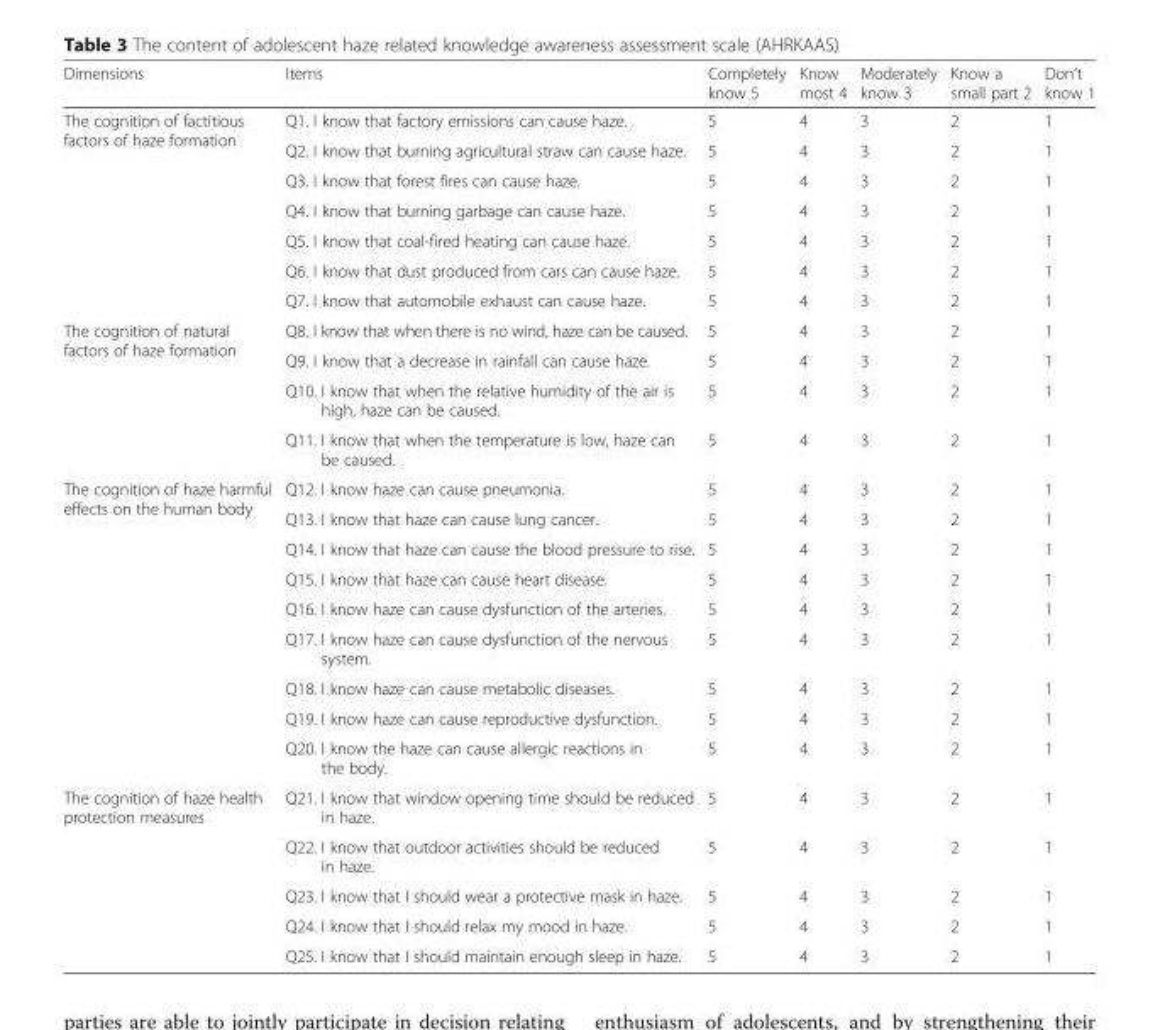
<table><thead><tr><td>Dimensions</td><td>Items</td><td>Completely know 5</td><td>Know most 4</td><td>Moderately know 3</td><td>Know a small part 2</td><td>Don’t know 1</td></tr></thead><tbody><tr><td rowspan="7">The cognition of factitious factors of haze formation</td><td>Q1. I know that factory emissions can cause haze.</td><td>5</td><td>4</td><td>3</td><td>2</td><td>1</td></tr><tr><td>Q2. I know that burning agricultural straw can cause haze.</td><td>5</td><td>4</td><td>3</td><td>2</td><td>1</td></tr><tr><td>Q3. I know that forest fires can cause haze.</td><td>5</td><td>4</td><td>3</td><td>2</td><td>1</td></tr><tr><td>Q4. I know that burning garbage can cause haze.</td><td>5</td><td>4</td><td>3</td><td>2</td><td>1</td></tr><tr><td>Q5. I know that coal-fired heating can cause haze.</td><td>5</td><td>4</td><td>3</td><td>2</td><td>1</td></tr><tr><td>Q6. I know that dust produced from cars can cause haze.</td><td>5</td><td>4</td><td>3</td><td>2</td><td>1</td></tr><tr><td>Q7. I know that automobile exhaust can cause haze.</td><td>5</td><td>4</td><td>3</td><td>2</td><td>1</td></tr><tr><td rowspan="4">The cognition of natural factors of haze formation</td><td>Q8. I know that when there is no wind, haze can be caused.</td><td>5</td><td>4</td><td>3</td><td>2</td><td>1</td></tr><tr><td>Q9. I know that a decrease in rainfall can cause haze.</td><td>5</td><td>4</td><td>3</td><td>2</td><td>1</td></tr><tr><td>Q10. I know that when the relative humidity of the air is high, haze can be caused.</td><td>5</td><td>4</td><td>3</td><td>2</td><td>1</td></tr><tr><td>Q11. I know that when the temperature is low, haze can be caused.</td><td>5</td><td>4</td><td>3</td><td>2</td><td>1</td></tr><tr><td rowspan="9">The cognition of haze harmful effects on the human body</td><td>Q12. I know haze can cause pneumonia.</td><td>5</td><td>4</td><td>3</td><td>2</td><td>1</td></tr><tr><td>Q13. I know that haze can cause lung cancer.</td><td>5</td><td>4</td><td>3</td><td>2</td><td>1</td></tr><tr><td>Q14. I know that haze can cause the blood pressure to rise.</td><td>5</td><td>4</td><td>3</td><td>2</td><td>1</td></tr><tr><td>Q15. I know that haze can cause heart disease.</td><td>5</td><td>4</td><td>3</td><td>2</td><td>1</td></tr><tr><td>Q16. I know haze can cause dysfunction of the arteries.</td><td>5</td><td>4</td><td>3</td><td>2</td><td>1</td></tr><tr><td>Q17. I know haze can cause dysfunction of the nervous system.</td><td>5</td><td>4</td><td>3</td><td>2</td><td>1</td></tr><tr><td>Q18. I know haze can cause metabolic diseases.</td><td>5</td><td>4</td><td>3</td><td>2</td><td>1</td></tr><tr><td>Q19. I know haze can cause reproductive dysfunction.</td><td>5</td><td>4</td><td>3</td><td>2</td><td>1</td></tr><tr><td>Q20. I know the haze can cause allergic reactions in the body.</td><td>5</td><td>4</td><td>3</td><td>2</td><td>1</td></tr><tr><td rowspan="5">The cognition of haze health protection measures</td><td>Q21. I know that window opening time should be reduced in haze.</td><td>5</td><td>4</td><td>3</td><td>2</td><td>1</td></tr><tr><td>Q22. I know that outdoor activities should be reduced in haze.</td><td>5</td><td>4</td><td>3</td><td>2</td><td>1</td></tr><tr><td>Q23. I know that I should wear a protective mask in haze.</td><td>5</td><td>4</td><td>3</td><td>2</td><td>1</td></tr><tr><td>Q24. I know that I should relax my mood in haze.</td><td>5</td><td>4</td><td>3</td><td>2</td><td>1</td></tr><tr><td>Q25. I know that I should maintain enough sleep in haze.</td><td>5</td><td>4</td><td>3</td><td>2</td><td>1</td></tr></tbody></table>